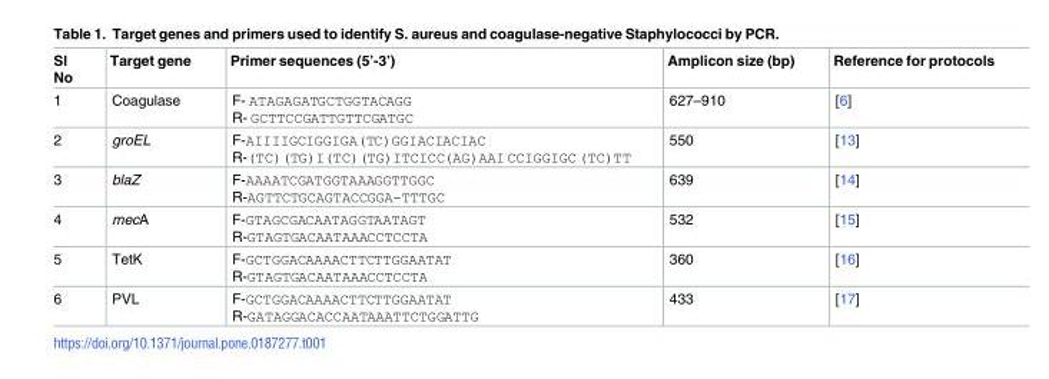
<table><thead><tr><td>Sl No</td><td>Target gene</td><td>Primer sequences (5’-3’)</td><td>Amplicon size (bp)</td><td>Reference for protocols</td></tr></thead><tbody><tr><td>1</td><td>Coagulase</td><td>F- ATAGAGATGCTGGTACAGG R- GCTTCCGATTGTTCGATGC</td><td>627–910</td><td>[6]</td></tr><tr><td>2</td><td>groEL</td><td>F-AIIIIGCIGGIGA(TC)GGIACIACIAC R-(TC)(TG)I(TC)(TG)ITCICC(AG)AAI CCIGGIGC (TC)TT</td><td>550</td><td>[13]</td></tr><tr><td>3</td><td>blaZ</td><td>F-AAAATCGATGGTAAAGGTTGGC R-AGTTCTGCAGTACCGGA-TTTGC</td><td>639</td><td>[14]</td></tr><tr><td>4</td><td>mecA</td><td>F-GTAGCGACAATAGGTAATAGT R-GTAGTGACAATAAACCTCCTA</td><td>532</td><td>[15]</td></tr><tr><td>5</td><td>TetK</td><td>F-GCTGGACAAAACTTCTTGGAATAT R-GTAGTGACAATAAACCTCCTA</td><td>360</td><td>[16]</td></tr><tr><td>6</td><td>PVL</td><td>F-GCTGGACAAAACTTCTTGGAATAT R-GATAGGACACCAATAAATTCTGGATTG</td><td>433</td><td>[17]</td></tr></tbody></table>